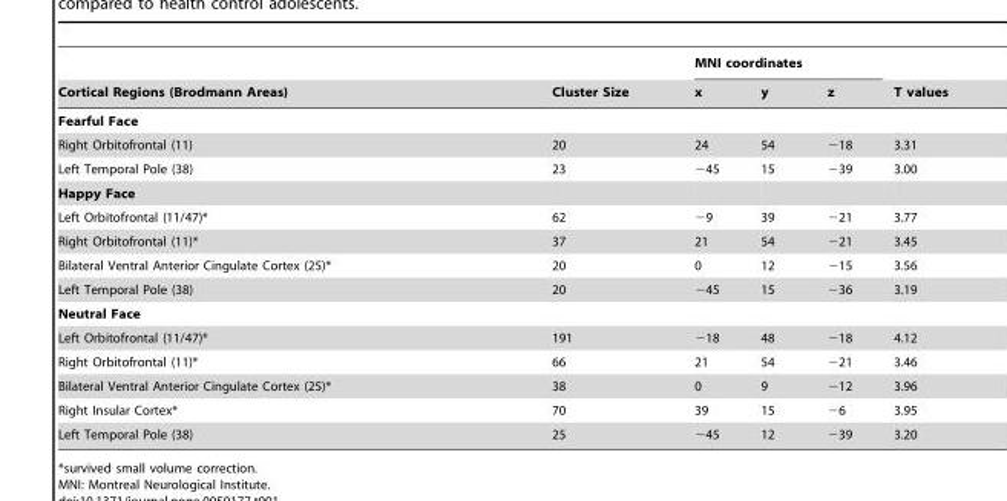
<table><thead><tr><td rowspan="2">Cortical Regions (Brodmann Areas)</td><td rowspan="2">Cluster Size</td><td colspan="3">MNI coordinates</td><td rowspan="2">T values</td></tr><tr><td>x</td><td>y</td><td>z</td></tr></thead><tbody><tr><td colspan="6">Fearful Face</td></tr><tr><td>Right Orbitofrontal (11)</td><td>20</td><td>24</td><td>54</td><td>−18</td><td>3.31</td></tr><tr><td>Left Temporal Pole (38)</td><td>23</td><td>−45</td><td>15</td><td>−39</td><td>3.00</td></tr><tr><td colspan="6">Happy Face</td></tr><tr><td>Left Orbitofrontal (11/47)*</td><td>62</td><td>−9</td><td>39</td><td>−21</td><td>3.77</td></tr><tr><td>Right Orbitofrontal (11)*</td><td>37</td><td>21</td><td>54</td><td>−21</td><td>3.45</td></tr><tr><td>Bilateral Ventral Anterior Cingulate Cortex (25)*</td><td>20</td><td>0</td><td>12</td><td>−15</td><td>3.56</td></tr><tr><td>Left Temporal Pole (38)</td><td>20</td><td>−45</td><td>15</td><td>−36</td><td>3.19</td></tr><tr><td colspan="6">Neutral Face</td></tr><tr><td>Left Orbitofrontal (11/47)*</td><td>191</td><td>−18</td><td>48</td><td>−18</td><td>4.12</td></tr><tr><td>Right Orbitofrontal (11)*</td><td>66</td><td>21</td><td>54</td><td>−21</td><td>3.46</td></tr><tr><td>Bilateral Ventral Anterior Cingulate Cortex (25)*</td><td>38</td><td>0</td><td>9</td><td>−12</td><td>3.96</td></tr><tr><td>Right Insular Cortex*</td><td>70</td><td>39</td><td>15</td><td>−6</td><td>3.95</td></tr><tr><td>Left Temporal Pole (38)</td><td>25</td><td>−45</td><td>12</td><td>−39</td><td>3.20</td></tr></tbody></table>